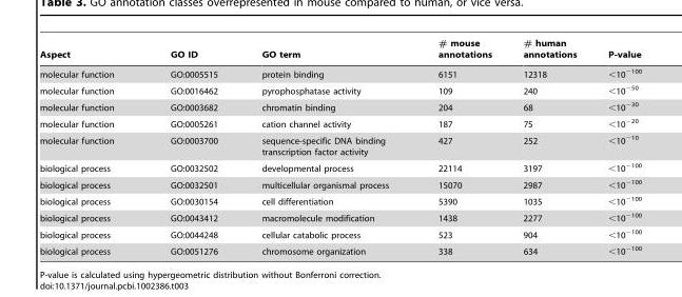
<table><thead><tr><td>Aspect</td><td>GO ID</td><td>GO term</td><td># mouse annotations</td><td># human annotations</td><td>P-value</td></tr></thead><tbody><tr><td>molecular function</td><td>GO:0005515</td><td>protein binding</td><td>6151</td><td>12318</td><td>&lt;10<sup>−100</sup></td></tr><tr><td>molecular function</td><td>GO:0016462</td><td>pyrophosphatase activity</td><td>109</td><td>240</td><td>&lt;10<sup>−50</sup></td></tr><tr><td>molecular function</td><td>GO:0003682</td><td>chromatin binding</td><td>204</td><td>68</td><td>&lt;10<sup>−30</sup></td></tr><tr><td>molecular function</td><td>GO:0005261</td><td>cation channel activity</td><td>187</td><td>75</td><td>&lt;10<sup>−20</sup></td></tr><tr><td>molecular function</td><td>GO:0003700</td><td>sequence-specific DNA binding transcription factor activity</td><td>427</td><td>252</td><td>&lt;10<sup>−10</sup></td></tr><tr><td>biological process</td><td>GO:0032502</td><td>developmental process</td><td>22114</td><td>3197</td><td>&lt;10<sup>−100</sup></td></tr><tr><td>biological process</td><td>GO:0032501</td><td>multicellular organismal process</td><td>15070</td><td>2987</td><td>&lt;10<sup>−100</sup></td></tr><tr><td>biological process</td><td>GO:0030154</td><td>cell differentiation</td><td>5390</td><td>1035</td><td>&lt;10<sup>−100</sup></td></tr><tr><td>biological process</td><td>GO:0043412</td><td>macromolecule modification</td><td>1438</td><td>2277</td><td>&lt;10<sup>−100</sup></td></tr><tr><td>biological process</td><td>GO:0044248</td><td>cellular catabolic process</td><td>523</td><td>904</td><td>&lt;10<sup>−100</sup></td></tr><tr><td>biological process</td><td>GO:0051276</td><td>chromosome organization</td><td>338</td><td>634</td><td>&lt;10<sup>−100</sup></td></tr></tbody></table>